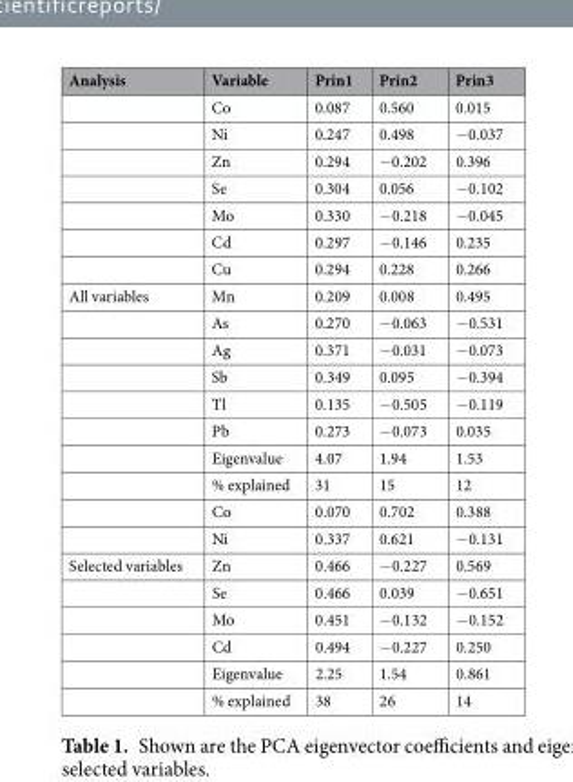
<table><thead><tr><td>Analysis</td><td>Variable</td><td>Prin1</td><td>Prin2</td><td>Prin3</td></tr></thead><tbody><tr><td></td><td>Co</td><td>0.087</td><td>0.560</td><td>0.015</td></tr><tr><td></td><td>Ni</td><td>0.247</td><td>0.498</td><td>−0.037</td></tr><tr><td></td><td>Zn</td><td>0.294</td><td>−0.202</td><td>0.396</td></tr><tr><td></td><td>Se</td><td>0.304</td><td>0.056</td><td>−0.102</td></tr><tr><td></td><td>Mo</td><td>0.330</td><td>−0.218</td><td>−0.045</td></tr><tr><td></td><td>Cd</td><td>0.297</td><td>−0.146</td><td>0.235</td></tr><tr><td></td><td>Cu</td><td>0.294</td><td>0.228</td><td>0.266</td></tr><tr><td rowspan="10">All variables</td><td>Mn</td><td>0.209</td><td>0.008</td><td>0.495</td></tr><tr><td>As</td><td>0.270</td><td>−0.063</td><td>−0.531</td></tr><tr><td>Ag</td><td>0.371</td><td>−0.031</td><td>−0.073</td></tr><tr><td>Sb</td><td>0.349</td><td>0.095</td><td>−0.394</td></tr><tr><td>Tl</td><td>0.135</td><td>−0.505</td><td>−0.119</td></tr><tr><td>Pb</td><td>0.273</td><td>−0.073</td><td>0.035</td></tr><tr><td>Eigenvalue</td><td>4.07</td><td>1.94</td><td>1.53</td></tr><tr><td>% explained</td><td>31</td><td>15</td><td>12</td></tr><tr><td>Co</td><td>0.070</td><td>0.702</td><td>0.388</td></tr><tr><td>Ni</td><td>0.337</td><td>0.621</td><td>−0.131</td></tr><tr><td rowspan="6">Selected variables</td><td>Zn</td><td>0.466</td><td>−0.227</td><td>0.569</td></tr><tr><td>Se</td><td>0.466</td><td>0.039</td><td>−0.651</td></tr><tr><td>Mo</td><td>0.451</td><td>−0.132</td><td>−0.152</td></tr><tr><td>Cd</td><td>0.494</td><td>−0.227</td><td>0.250</td></tr><tr><td>Eigenvalue</td><td>2.25</td><td>1.54</td><td>0.861</td></tr><tr><td>% explained</td><td>38</td><td>26</td><td>14</td></tr></tbody></table>